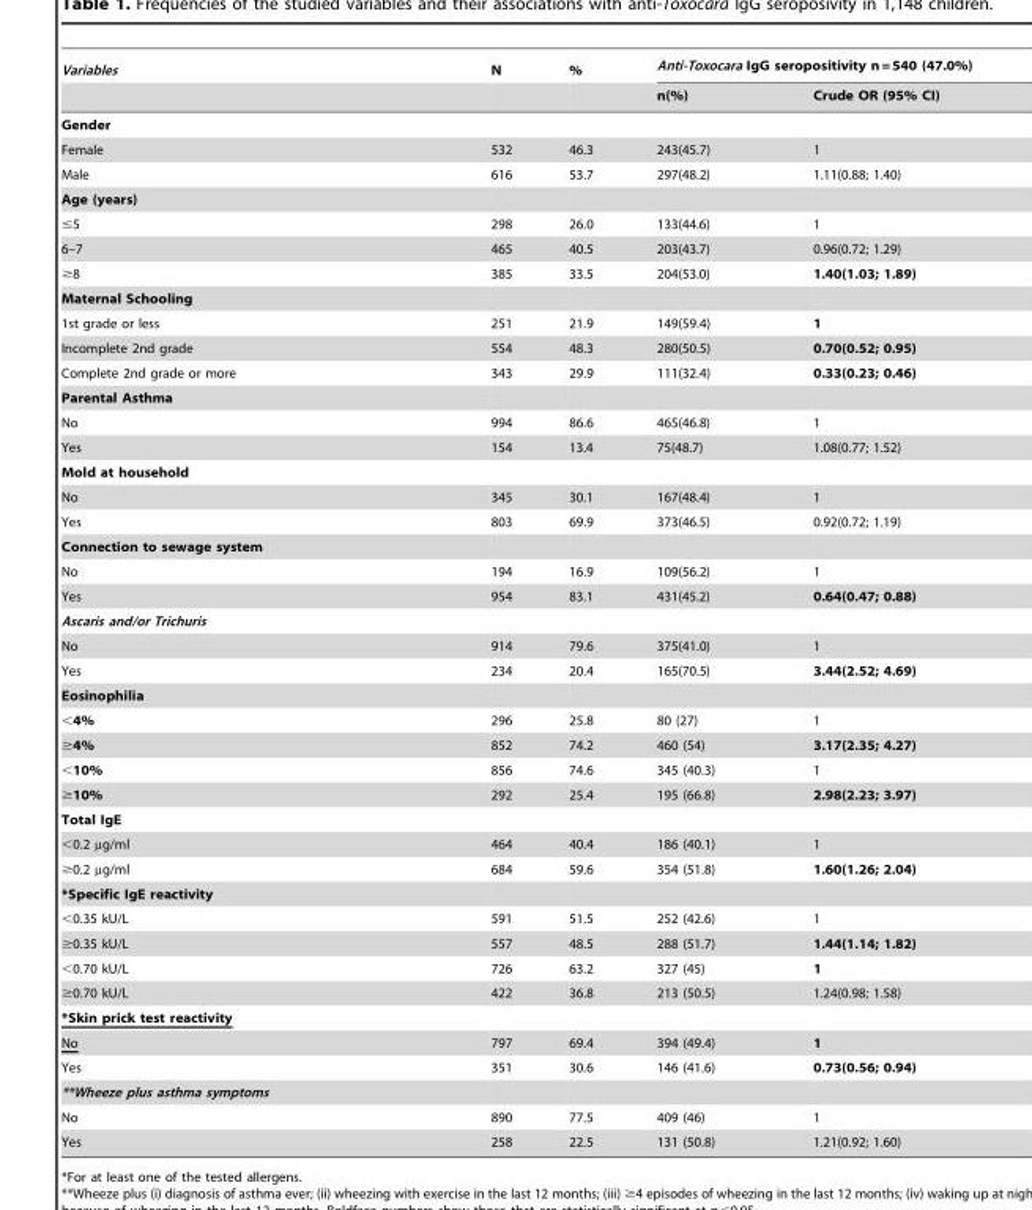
<table><thead><tr><td rowspan="2">Variables</td><td rowspan="2">N</td><td rowspan="2">%</td><td colspan="2">Anti-Toxocara IgG seropositivity n = 540 (47.0%)</td></tr><tr><td>n(%)</td><td>Crude OR (95% CI)</td></tr></thead><tbody><tr><td colspan="5">Gender</td></tr><tr><td>Female</td><td>532</td><td>46.3</td><td>243(45.7)</td><td>1</td></tr><tr><td>Male</td><td>616</td><td>53.7</td><td>297(48.2)</td><td>1.11(0.88; 1.40)</td></tr><tr><td colspan="5">Age (years)</td></tr><tr><td>≤5</td><td>298</td><td>26.0</td><td>133(44.6)</td><td>1</td></tr><tr><td>6–7</td><td>465</td><td>40.5</td><td>203(43.7)</td><td>0.96(0.72; 1.29)</td></tr><tr><td>≥8</td><td>385</td><td>33.5</td><td>204(53.0)</td><td>1.40(1.03; 1.89)</td></tr><tr><td colspan="5">Maternal Schooling</td></tr><tr><td>1st grade or less</td><td>251</td><td>21.9</td><td>149(59.4)</td><td>1</td></tr><tr><td>Incomplete 2nd grade</td><td>554</td><td>48.3</td><td>280(50.5)</td><td>0.70(0.52; 0.95)</td></tr><tr><td>Complete 2nd grade or more</td><td>343</td><td>29.9</td><td>111(32.4)</td><td>0.33(0.23; 0.46)</td></tr><tr><td colspan="5">Parental Asthma</td></tr><tr><td>No</td><td>994</td><td>86.6</td><td>465(46.8)</td><td>1</td></tr><tr><td>Yes</td><td>154</td><td>13.4</td><td>75(48.7)</td><td>1.08(0.77; 1.52)</td></tr><tr><td colspan="5">Mold at household</td></tr><tr><td>No</td><td>345</td><td>30.1</td><td>167(48.4)</td><td>1</td></tr><tr><td>Yes</td><td>803</td><td>69.9</td><td>373(46.5)</td><td>0.92(0.72; 1.19)</td></tr><tr><td colspan="5">Connection to sewage system</td></tr><tr><td>No</td><td>194</td><td>16.9</td><td>109(56.2)</td><td>1</td></tr><tr><td>Yes</td><td>954</td><td>83.1</td><td>431(45.2)</td><td>0.64(0.47; 0.88)</td></tr><tr><td colspan="5">Ascaris and/or Trichuris</td></tr><tr><td>No</td><td>914</td><td>79.6</td><td>375(41.0)</td><td>1</td></tr><tr><td>Yes</td><td>234</td><td>20.4</td><td>165(70.5)</td><td>3.44(2.52; 4.69)</td></tr><tr><td colspan="5">Eosinophilia</td></tr><tr><td>&lt;4%</td><td>296</td><td>25.8</td><td>80 (27)</td><td>1</td></tr><tr><td>≥4%</td><td>852</td><td>74.2</td><td>460 (54)</td><td>3.17(2.35; 4.27)</td></tr><tr><td>&lt;10%</td><td>856</td><td>74.6</td><td>345 (40.3)</td><td>1</td></tr><tr><td>≥10%</td><td>292</td><td>25.4</td><td>195 (66.8)</td><td>2.98(2.23; 3.97)</td></tr><tr><td colspan="5">Total IgE</td></tr><tr><td>&lt;0.2 µg/ml</td><td>464</td><td>40.4</td><td>186 (40.1)</td><td>1</td></tr><tr><td>≥0.2 µg/ml</td><td>684</td><td>59.6</td><td>354 (51.8)</td><td>1.60(1.26; 2.04)</td></tr><tr><td colspan="5">*Specific IgE reactivity</td></tr><tr><td>&lt;0.35 kU/L</td><td>591</td><td>51.5</td><td>252 (42.6)</td><td>1</td></tr><tr><td>≥0.35 kU/L</td><td>557</td><td>48.5</td><td>288 (51.7)</td><td>1.44(1.14; 1.82)</td></tr><tr><td>&lt;0.70 kU/L</td><td>726</td><td>63.2</td><td>327 (45)</td><td>1</td></tr><tr><td>≥0.70 kU/L</td><td>422</td><td>36.8</td><td>213 (50.5)</td><td>1.24(0.98; 1.58)</td></tr><tr><td colspan="5">*Skin prick test reactivity</td></tr><tr><td>No</td><td>797</td><td>69.4</td><td>394 (49.4)</td><td>1</td></tr><tr><td>Yes</td><td>351</td><td>30.6</td><td>146 (41.6)</td><td>0.73(0.56; 0.94)</td></tr><tr><td colspan="5">**Wheeze plus asthma symptoms</td></tr><tr><td>No</td><td>890</td><td>77.5</td><td>409 (46)</td><td>1</td></tr><tr><td>Yes</td><td>258</td><td>22.5</td><td>131 (50.8)</td><td>1.21(0.92; 1.60)</td></tr></tbody></table>